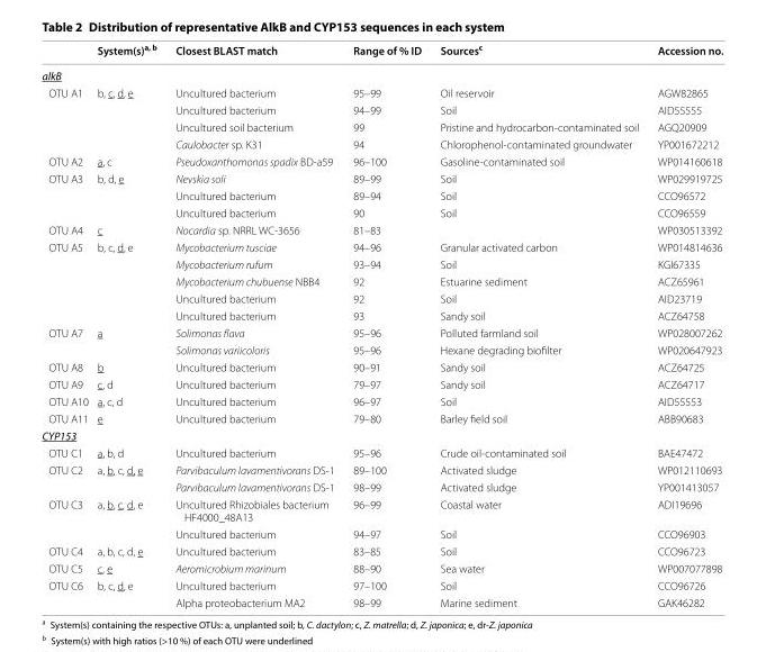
<table><thead><tr><td></td><td>System(s)<sup>a, b</sup></td><td>Closest BLAST match</td><td>Range of % ID</td><td>Sources<sup>c</sup></td><td>Accession no.</td></tr></thead><tbody><tr><td colspan="6">alkB</td></tr><tr><td rowspan="4">OTU A1</td><td rowspan="4">b, c, d, e</td><td>Uncultured bacterium</td><td>95–99</td><td>Oil reservoir</td><td>AGW82865</td></tr><tr><td>Uncultured bacterium</td><td>94–99</td><td>Soil</td><td>AID55555</td></tr><tr><td>Uncultured soil bacterium</td><td>99</td><td>Pristine and hydrocarbon‑contaminated soil</td><td>AGQ20909</td></tr><tr><td>Caulobacter sp. K31</td><td>94</td><td>Chlorophenol‑contaminated groundwater</td><td>YP001672212</td></tr><tr><td>OTU A2</td><td>a, c</td><td>Pseudoxanthomonas spadix BD‑a59</td><td>96–100</td><td>Gasoline‑contaminated soil</td><td>WP014160618</td></tr><tr><td rowspan="3">OTU A3</td><td rowspan="3">b, d, e</td><td>Nevskia soli</td><td>89–99</td><td>Soil</td><td>WP029919725</td></tr><tr><td>Uncultured bacterium</td><td>89–94</td><td>Soil</td><td>CCO96572</td></tr><tr><td>Uncultured bacterium</td><td>90</td><td>Soil</td><td>CCO96559</td></tr><tr><td>OTU A4</td><td>c</td><td>Nocardia sp. NRRL WC‑3656</td><td>81–83</td><td></td><td>WP030513392</td></tr><tr><td rowspan="5">OTU A5</td><td rowspan="5">b, c, d, e</td><td>Mycobacterium tusciae</td><td>94–96</td><td>Granular activated carbon</td><td>WP014814636</td></tr><tr><td>Mycobacterium rufum</td><td>93–94</td><td>Soil</td><td>KGI67335</td></tr><tr><td>Mycobacterium chubuense NBB4</td><td>92</td><td>Estuarine sediment</td><td>ACZ65961</td></tr><tr><td>Uncultured bacterium</td><td>92</td><td>Soil</td><td>AID23719</td></tr><tr><td>Uncultured bacterium</td><td>93</td><td>Sandy soil</td><td>ACZ64758</td></tr><tr><td rowspan="2">OTU A7</td><td rowspan="2">a</td><td>Solimonas flava</td><td>95–96</td><td>Polluted farmland soil</td><td>WP028007262</td></tr><tr><td>Solimonas variicoloris</td><td>95–96</td><td>Hexane degrading biofilter</td><td>WP020647923</td></tr><tr><td>OTU A8</td><td>b</td><td>Uncultured bacterium</td><td>90–91</td><td>Sandy soil</td><td>ACZ64725</td></tr><tr><td>OTU A9</td><td>c, d</td><td>Uncultured bacterium</td><td>79–97</td><td>Sandy soil</td><td>ACZ64717</td></tr><tr><td>OTU A10</td><td>a, c, d</td><td>Uncultured bacterium</td><td>96–97</td><td>Soil</td><td>AID55553</td></tr><tr><td>OTU A11</td><td>e</td><td>Uncultured bacterium</td><td>79–80</td><td>Barley field soil</td><td>ABB90683</td></tr><tr><td colspan="6">CYP153</td></tr><tr><td>OTU C1</td><td>a, b, d</td><td>Uncultured bacterium</td><td>95–96</td><td>Crude oil‑contaminated soil</td><td>BAE47472</td></tr><tr><td rowspan="2">OTU C2</td><td rowspan="2">a, b, c, d, e</td><td>Parvibaculum lavamentivorans DS‑1</td><td>89–100</td><td>Activated sludge</td><td>WP012110693</td></tr><tr><td>Parvibaculum lavamentivorans DS‑1</td><td>98–99</td><td>Activated sludge</td><td>YP001413057</td></tr><tr><td rowspan="2">OTU C3</td><td rowspan="2">a, b, c, d, e</td><td>Uncultured Rhizobiales bacterium HF4000_48A13</td><td>96–99</td><td>Coastal water</td><td>ADI19696</td></tr><tr><td>Uncultured bacterium</td><td>94–97</td><td>Soil</td><td>CCO96903</td></tr><tr><td>OTU C4</td><td>a, b, c, d, e</td><td>Uncultured bacterium</td><td>83–85</td><td>Soil</td><td>CCO96723</td></tr><tr><td>OTU C5</td><td>c, e</td><td>Aeromicrobium marinum</td><td>88–90</td><td>Sea water</td><td>WP007077898</td></tr><tr><td rowspan="2">OTU C6</td><td rowspan="2">b, c, d, e</td><td>Uncultured bacterium</td><td>97–100</td><td>Soil</td><td>CCO96726</td></tr><tr><td>Alpha proteobacterium MA2</td><td>98–99</td><td>Marine sediment</td><td>GAK46282</td></tr></tbody></table>